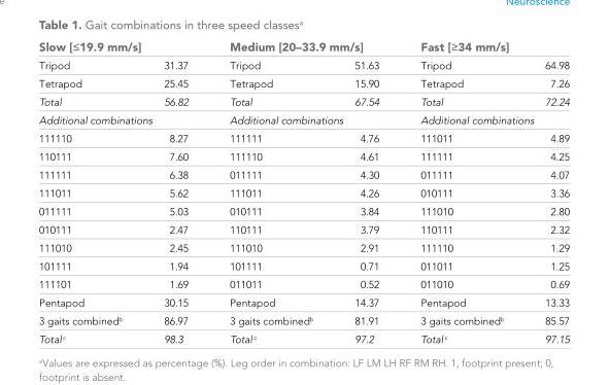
<table><thead><tr><td colspan="2">Slow [≤19.9 mm/s]</td><td colspan="2">Medium [20–33.9 mm/s]</td><td colspan="2">Fast [≥34 mm/s]</td></tr><tr><td>Tripod</td><td>31.37</td><td>Tripod</td><td>51.63</td><td>Tripod</td><td>64.98</td></tr></thead><tbody><tr><td>Tetrapod</td><td>25.45</td><td>Tetrapod</td><td>15.90</td><td>Tetrapod</td><td>7.26</td></tr><tr><td>Total</td><td>56.82</td><td>Total</td><td>67.54</td><td>Total</td><td>72.24</td></tr><tr><td colspan="2">Additional combinations</td><td colspan="2">Additional combinations</td><td colspan="2">Additional combinations</td></tr><tr><td>111110</td><td>8.27</td><td>111111</td><td>4.76</td><td>111011</td><td>4.89</td></tr><tr><td>110111</td><td>7.60</td><td>111110</td><td>4.61</td><td>111111</td><td>4.25</td></tr><tr><td>111111</td><td>6.38</td><td>011111</td><td>4.30</td><td>011111</td><td>4.07</td></tr><tr><td>111011</td><td>5.62</td><td>111011</td><td>4.26</td><td>010111</td><td>3.36</td></tr><tr><td>011111</td><td>5.03</td><td>010111</td><td>3.84</td><td>111010</td><td>2.80</td></tr><tr><td>010111</td><td>2.47</td><td>110111</td><td>3.79</td><td>110111</td><td>2.32</td></tr><tr><td>111010</td><td>2.45</td><td>111010</td><td>2.91</td><td>111110</td><td>1.29</td></tr><tr><td>101111</td><td>1.94</td><td>101111</td><td>0.71</td><td>011011</td><td>1.25</td></tr><tr><td>111101</td><td>1.69</td><td>011011</td><td>0.52</td><td>011010</td><td>0.69</td></tr><tr><td>Pentapod</td><td>30.15</td><td>Pentapod</td><td>14.37</td><td>Pentapod</td><td>13.33</td></tr><tr><td>3 gaits combined<sup>b</sup></td><td>86.97</td><td>3 gaits combined<sup>b</sup></td><td>81.91</td><td>3 gaits combined<sup>b</sup></td><td>85.57</td></tr><tr><td>Total <sup>c</sup></td><td>98.3</td><td>Total <sup>c</sup></td><td>97.2</td><td>Total <sup>c</sup></td><td>97.15</td></tr></tbody></table>